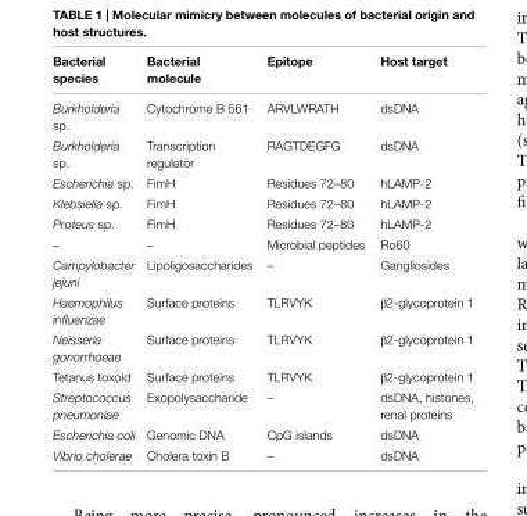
<table><thead><tr><td>Bacterial species</td><td>Bacterial molecule</td><td>epitope</td><td>Host target</td></tr></thead><tbody><tr><td>Burkholderia sp.</td><td>Cytochrome B 561</td><td>ARVLWRATH</td><td>dsDNA</td></tr><tr><td>Burkholderia sp.</td><td>Transcription regulator</td><td>RAGTDEGFG</td><td>dsDNA</td></tr><tr><td>Escherichia sp.</td><td>FimH</td><td>Residues 72–80</td><td>hLAMP-2</td></tr><tr><td>Klebsiella sp.</td><td>FimH</td><td>Residues 72–80</td><td>hLAMP-2</td></tr><tr><td>Proteus sp.</td><td>FimH</td><td>Residues 72–80</td><td>hLAMP-2</td></tr><tr><td>–</td><td>–</td><td>Microbial peptides</td><td>Ro60</td></tr><tr><td>Campylobacter jejuni</td><td>Lipoligosaccharides</td><td>–</td><td>Gangliosides</td></tr><tr><td>Haemophilus influenzae</td><td>Surface proteins</td><td>TLRVYK</td><td>β2-glycoprotein 1</td></tr><tr><td>Neisseria gonorrhoeae</td><td>Surface proteins</td><td>TLRVYK</td><td>β2-glycoprotein 1</td></tr><tr><td>Tetanus toxoid</td><td>Surface proteins</td><td>TLRVYK</td><td>β2-glycoprotein 1</td></tr><tr><td>Streptococcus pneumoniae</td><td>Exopolysaccharide</td><td>–</td><td>dsDNA, histones, renal proteins</td></tr><tr><td>Escherichia coli</td><td>Genomic DNA</td><td>CpG islands</td><td>dsDNA</td></tr><tr><td>Vibrio cholerae</td><td>Cholera toxin B</td><td>–</td><td>dsDNA</td></tr></tbody></table>